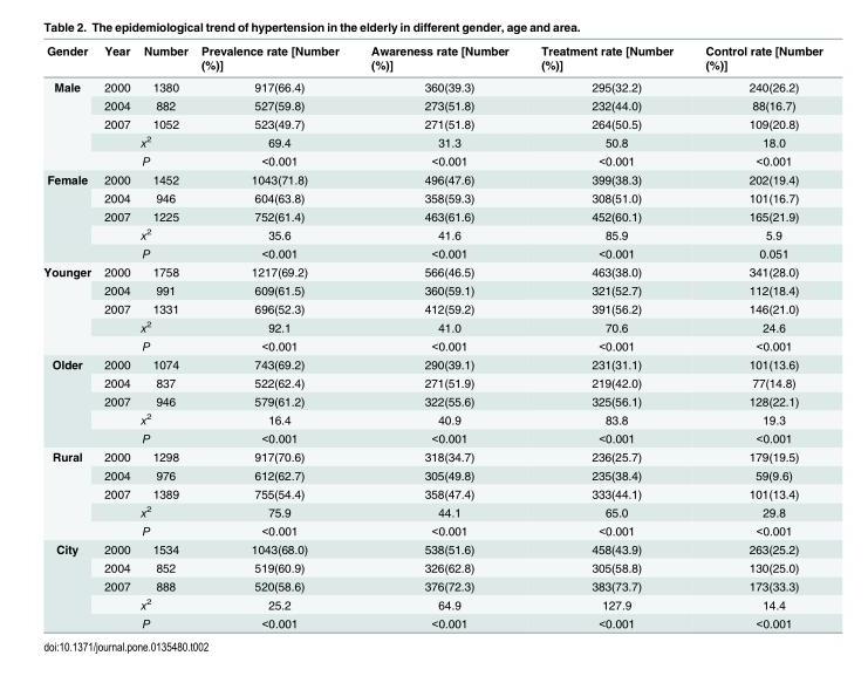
<table><thead><tr><td>Gender</td><td>Year</td><td>Number</td><td>Prevalence rate [Number (%)]</td><td>Awareness rate [Number (%)]</td><td>Treatment rate [Number (%)]</td><td>Control rate [Number (%)]</td></tr></thead><tbody><tr><td rowspan="5">Male</td><td>2000</td><td>1380</td><td>917(66.4)</td><td>360(39.3)</td><td>295(32.2)</td><td>240(26.2)</td></tr><tr><td>2004</td><td>882</td><td>527(59.8)</td><td>273(51.8)</td><td>232(44.0)</td><td>88(16.7)</td></tr><tr><td>2007</td><td>1052</td><td>523(49.7)</td><td>271(51.8)</td><td>264(50.5)</td><td>109(20.8)</td></tr><tr><td colspan="2">x<sup>2</sup></td><td>69.4</td><td>31.3</td><td>50.8</td><td>18.0</td></tr><tr><td colspan="2">P</td><td>&lt;0.001</td><td>&lt;0.001</td><td>&lt;0.001</td><td>&lt;0.001</td></tr><tr><td rowspan="5">Female</td><td>2000</td><td>1452</td><td>1043(71.8)</td><td>496(47.6)</td><td>399(38.3)</td><td>202(19.4)</td></tr><tr><td>2004</td><td>946</td><td>604(63.8)</td><td>358(59.3)</td><td>308(51.0)</td><td>101(16.7)</td></tr><tr><td>2007</td><td>1225</td><td>752(61.4)</td><td>463(61.6)</td><td>452(60.1)</td><td>165(21.9)</td></tr><tr><td colspan="2">x<sup>2</sup></td><td>35.6</td><td>41.6</td><td>85.9</td><td>5.9</td></tr><tr><td colspan="2">P</td><td>&lt;0.001</td><td>&lt;0.001</td><td>&lt;0.001</td><td>0.051</td></tr><tr><td rowspan="5">Younger</td><td>2000</td><td>1758</td><td>1217(69.2)</td><td>566(46.5)</td><td>463(38.0)</td><td>341(28.0)</td></tr><tr><td>2004</td><td>991</td><td>609(61.5)</td><td>360(59.1)</td><td>321(52.7)</td><td>112(18.4)</td></tr><tr><td>2007</td><td>1331</td><td>696(52.3)</td><td>412(59.2)</td><td>391(56.2)</td><td>146(21.0)</td></tr><tr><td colspan="2">x<sup>2</sup></td><td>92.1</td><td>41.0</td><td>70.6</td><td>24.6</td></tr><tr><td colspan="2">P</td><td>&lt;0.001</td><td>&lt;0.001</td><td>&lt;0.001</td><td>&lt;0.001</td></tr><tr><td rowspan="5">Older</td><td>2000</td><td>1074</td><td>743(69.2)</td><td>290(39.1)</td><td>231(31.1)</td><td>101(13.6)</td></tr><tr><td>2004</td><td>837</td><td>522(62.4)</td><td>271(51.9)</td><td>219(42.0)</td><td>77(14.8)</td></tr><tr><td>2007</td><td>946</td><td>579(61.2)</td><td>322(55.6)</td><td>325(56.1)</td><td>128(22.1)</td></tr><tr><td colspan="2">x<sup>2</sup></td><td>16.4</td><td>40.9</td><td>83.8</td><td>19.3</td></tr><tr><td colspan="2">P</td><td>&lt;0.001</td><td>&lt;0.001</td><td>&lt;0.001</td><td>&lt;0.001</td></tr><tr><td rowspan="5">Rural</td><td>2000</td><td>1298</td><td>917(70.6)</td><td>318(34.7)</td><td>236(25.7)</td><td>179(19.5)</td></tr><tr><td>2004</td><td>976</td><td>612(62.7)</td><td>305(49.8)</td><td>235(38.4)</td><td>59(9.6)</td></tr><tr><td>2007</td><td>1389</td><td>755(54.4)</td><td>358(47.4)</td><td>333(44.1)</td><td>101(13.4)</td></tr><tr><td colspan="2">x<sup>2</sup></td><td>75.9</td><td>44.1</td><td>65.0</td><td>29.8</td></tr><tr><td colspan="2">P</td><td>&lt;0.001</td><td>&lt;0.001</td><td>&lt;0.001</td><td>&lt;0.001</td></tr><tr><td rowspan="5">City</td><td>2000</td><td>1534</td><td>1043(68.0)</td><td>538(51.6)</td><td>458(43.9)</td><td>263(25.2)</td></tr><tr><td>2004</td><td>852</td><td>519(60.9)</td><td>326(62.8)</td><td>305(58.8)</td><td>130(25.0)</td></tr><tr><td>2007</td><td>888</td><td>520(58.6)</td><td>376(72.3)</td><td>383(73.7)</td><td>173(33.3)</td></tr><tr><td colspan="2">x<sup>2</sup></td><td>25.2</td><td>64.9</td><td>127.9</td><td>14.4</td></tr><tr><td colspan="2">P</td><td>&lt;0.001</td><td>&lt;0.001</td><td>&lt;0.001</td><td>&lt;0.001</td></tr></tbody></table>